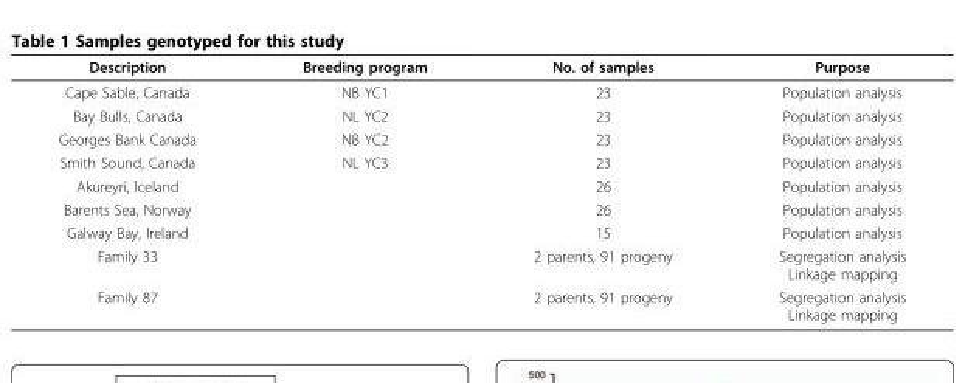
<table><thead><tr><td>Description</td><td>Breeding program</td><td>No. of samples</td><td>Purpose</td></tr></thead><tbody><tr><td>Cape Sable, Canada</td><td>NB YC1</td><td>23</td><td>Population analysis</td></tr><tr><td>Bay Bulls, Canada</td><td>NL YC2</td><td>23</td><td>Population analysis</td></tr><tr><td>Georges Bank Canada</td><td>NB YC2</td><td>23</td><td>Population analysis</td></tr><tr><td>Smith Sound, Canada</td><td>NL YC3</td><td>23</td><td>Population analysis</td></tr><tr><td>Akureyri, Iceland</td><td></td><td>26</td><td>Population analysis</td></tr><tr><td>Barents Sea, Norway</td><td></td><td>26</td><td>Population analysis</td></tr><tr><td>Galway Bay, Ireland</td><td></td><td>15</td><td>Population analysis</td></tr><tr><td>Family 33</td><td></td><td>2 parents, 91 progeny</td><td>Segregation analysis Linkage mapping</td></tr><tr><td>Family 87</td><td></td><td>2 parents, 91 progeny</td><td>Segregation analysis Linkage mapping</td></tr></tbody></table>